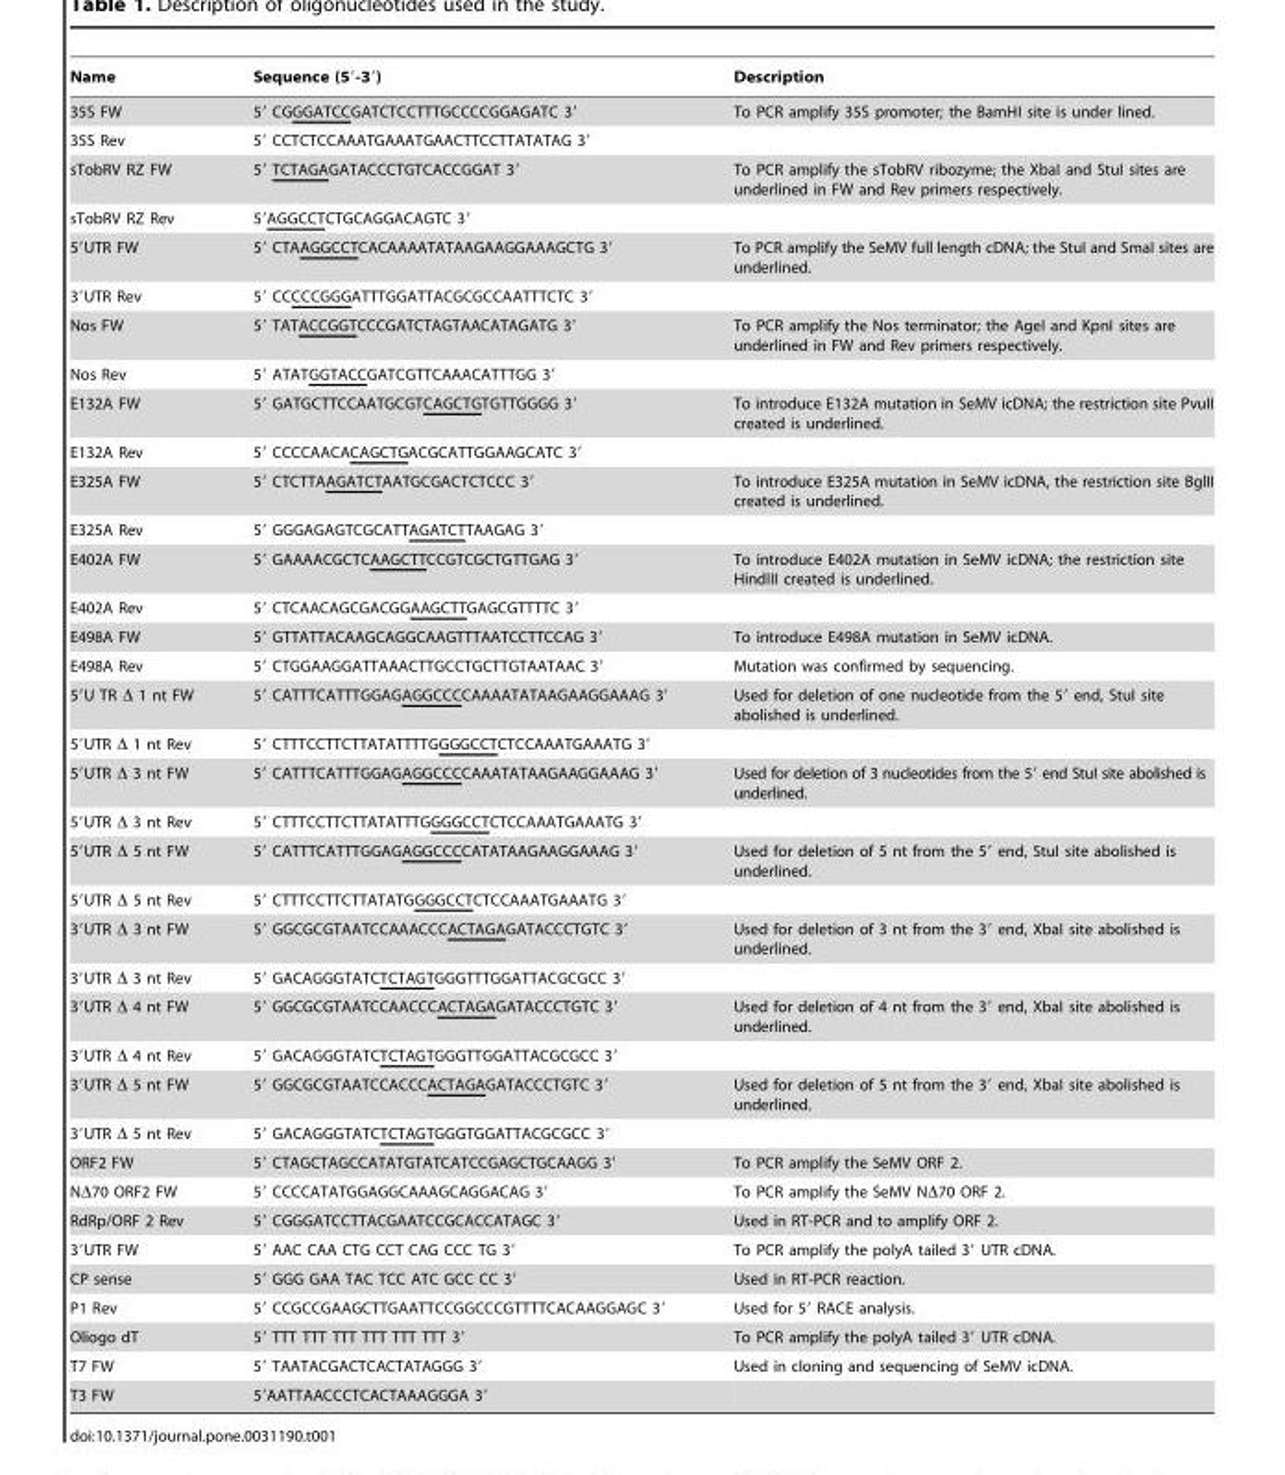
<table><thead><tr><td>Name</td><td>Sequence (5′-3′)</td><td>Description</td></tr></thead><tbody><tr><td>35S FW</td><td>5′ CGGGATCCGATCTCCTTTGCCCCGGAGATC 3′</td><td>To PCR amplify 35S promoter; the BamHI site is under lined.</td></tr><tr><td>35S Rev</td><td>5′ CCTCTCCAAATGAAATGAACTTCCTTATATAG 3′</td><td></td></tr><tr><td>sTobRV RZ FW</td><td>5′ TCTAGAGATACCCTGTCACCGGAT 3′</td><td>To PCR amplify the sTobRV ribozyme; the XbaI and StuI sites are underlined in FW and Rev primers respectively.</td></tr><tr><td>sTobRV RZ Rev</td><td>5′AGGCCTCTGCAGGACAGTC 3′</td><td></td></tr><tr><td>5′UTR FW</td><td>5′ CTAAGGCCTCACAAAATATAAGAAGGAAAGCTG 3′</td><td>To PCR amplify the SeMV full length cDNA; the StuI and SmaI sites are underlined.</td></tr><tr><td>3′UTR Rev</td><td>5′ CCCCCGGGATTTGGATTACGCGCCAATTTCTC 3′</td><td></td></tr><tr><td>Nos FW</td><td>5′ TATACCGGTCCCGATCTAGTAACATAGATG 3′</td><td>To PCR amplify the Nos terminator; the AgeI and KpnI sites are underlined in FW and Rev primers respectively.</td></tr><tr><td>Nos Rev</td><td>5′ ATATGGTACCGATCGTTCAAACATTTGG 3′</td><td></td></tr><tr><td>E132A FW</td><td>5′ GATGCTTCCAATGCGTCAGCTGTGTTGGGG 3′</td><td>To introduce E132A mutation in SeMV icDNA; the restriction site PvuII created is underlined.</td></tr><tr><td>E132A Rev</td><td>5′ CCCCAACACAGCTGACGCATTGGAAGCATC 3′</td><td></td></tr><tr><td>E325A FW</td><td>5′ CTCTTAAGATCTAATGCGACTCTCCC 3′</td><td>To introduce E325A mutation in SeMV icDNA, the restriction site BglII created is underlined.</td></tr><tr><td>E325A Rev</td><td>5′ GGGAGAGTCGCATTAGATCTTAAGAG 3′</td><td></td></tr><tr><td>E402A FW</td><td>5′ GAAAACGCTCAAGCTTCCGTCGCTGTTGAG 3′</td><td>To introduce E402A mutation in SeMV icDNA; the restriction site HindIII created is underlined.</td></tr><tr><td>E402A Rev</td><td>5′ CTCAACAGCGACGGAAGCTTGAGCGTTTTC 3′</td><td></td></tr><tr><td>E498A FW</td><td>5′ GTTATTACAAGCAGGCAAGTTTAATCCTTCCAG 3′</td><td>To introduce E498A mutation in SeMV icDNA.</td></tr><tr><td>E498A Rev</td><td>5′ CTGGAAGGATTAAACTTGCCTGCTTGTAATAAC 3′</td><td>Mutation was confirmed by sequencing.</td></tr><tr><td>5′U TR Δ 1 nt FW</td><td>5′ CATTTCATTTGGAGAGGCCCCAAAATATAAGAAGGAAAG 3′</td><td>Used for deletion of one nucleotide from the 5′ end, StuI site abolished is underlined.</td></tr><tr><td>5′UTR Δ 1 nt Rev</td><td>5′ CTTTCCTTCTTATATTTTGGGGCCTCTCCAAATGAAATG 3′</td><td></td></tr><tr><td>5′UTR Δ 3 nt FW</td><td>5′ CATTTCATTTGGAGAGGCCCCAAATATAAGAAGGAAAG 3′</td><td>Used for deletion of 3 nucleotides from the 5′ end StuI site abolished is underlined.</td></tr><tr><td>5′UTR Δ 3 nt Rev</td><td>5′ CTTTCCTTCTTATATTTGGGGCCTCTCCAAATGAAATG 3′</td><td></td></tr><tr><td>5′UTR Δ 5 nt FW</td><td>5′ CATTTCATTTGGAGAGGCCCCATATAAGAAGGAAAG 3′</td><td>Used for deletion of 5 nt from the 5′ end, StuI site abolished is underlined.</td></tr><tr><td>5′UTR Δ 5 nt Rev</td><td>5′ CTTTCCTTCTTATATGGGGCCTCTCCAAATGAAATG 3′</td><td></td></tr><tr><td>3′UTR Δ 3 nt FW</td><td>5′ GGCGCGTAATCCAAACCCACTAGAGATACCCTGTC 3′</td><td>Used for deletion of 3 nt from the 3′ end, XbaI site abolished is underlined.</td></tr><tr><td>3′UTR Δ 3 nt Rev</td><td>5′ GACAGGGTATCTCTAGTGGGTTTGGATTACGCGCC 3′</td><td></td></tr><tr><td>3′UTR Δ 4 nt FW</td><td>5′ GGCGCGTAATCCAACCCACTAGAGATACCCTGTC 3′</td><td>Used for deletion of 4 nt from the 3′ end, XbaI site abolished is underlined.</td></tr><tr><td>3′UTR Δ 4 nt Rev</td><td>5′ GACAGGGTATCTCTAGTGGGTTGGATTACGCGCC 3′</td><td></td></tr><tr><td>3′UTR Δ 5 nt FW</td><td>5′ GGCGCGTAATCCACCCACTAGAGATACCCTGTC 3′</td><td>Used for deletion of 5 nt from the 3′ end, XbaI site abolished is underlined.</td></tr><tr><td>3′UTR Δ 5 nt Rev</td><td>5′ GACAGGGTATCTCTAGTGGGTGGATTACGCGCC 3′</td><td></td></tr><tr><td>ORF2 FW</td><td>5′ CTAGCTAGCCATATGTATCATCCGAGCTGCAAGG 3′</td><td>To PCR amplify the SeMV ORF 2.</td></tr><tr><td>NΔ70 ORF2 FW</td><td>5′ CCCCATATGGAGGCAAAGCAGGACAG 3′</td><td>To PCR amplify the SeMV NΔ70 ORF 2.</td></tr><tr><td>RdRp/ORF 2 Rev</td><td>5′ CGGGATCCTTACGAATCCGCACCATAGC 3′</td><td>Used in RT-PCR and to amplify ORF 2.</td></tr><tr><td>3′UTR FW</td><td>5′ AAC CAA CTG CCT CAG CCC TG 3′</td><td>To PCR amplify the polyA tailed 3′ UTR cDNA.</td></tr><tr><td>CP sense</td><td>5′ GGG GAA TAC TCC ATC GCC CC 3′</td><td>Used in RT-PCR reaction.</td></tr><tr><td>P1 Rev</td><td>5′ CCGCCGAAGCTTGAATTCCGGCCCGTTTTCACAAGGAGC 3′</td><td>Used for 5′ RACE analysis.</td></tr><tr><td>Oliogo dT</td><td>5′ TTT TTT TTT TTT TTT TTT 3′</td><td>To PCR amplify the polyA tailed 3′ UTR cDNA.</td></tr><tr><td>T7 FW</td><td>5′ TAATACGACTCACTATAGGG 3′</td><td>Used in cloning and sequencing of SeMV icDNA.</td></tr><tr><td>T3 FW</td><td>5′AATTAACCCTCACTAAAGGGA 3′</td><td></td></tr></tbody></table>